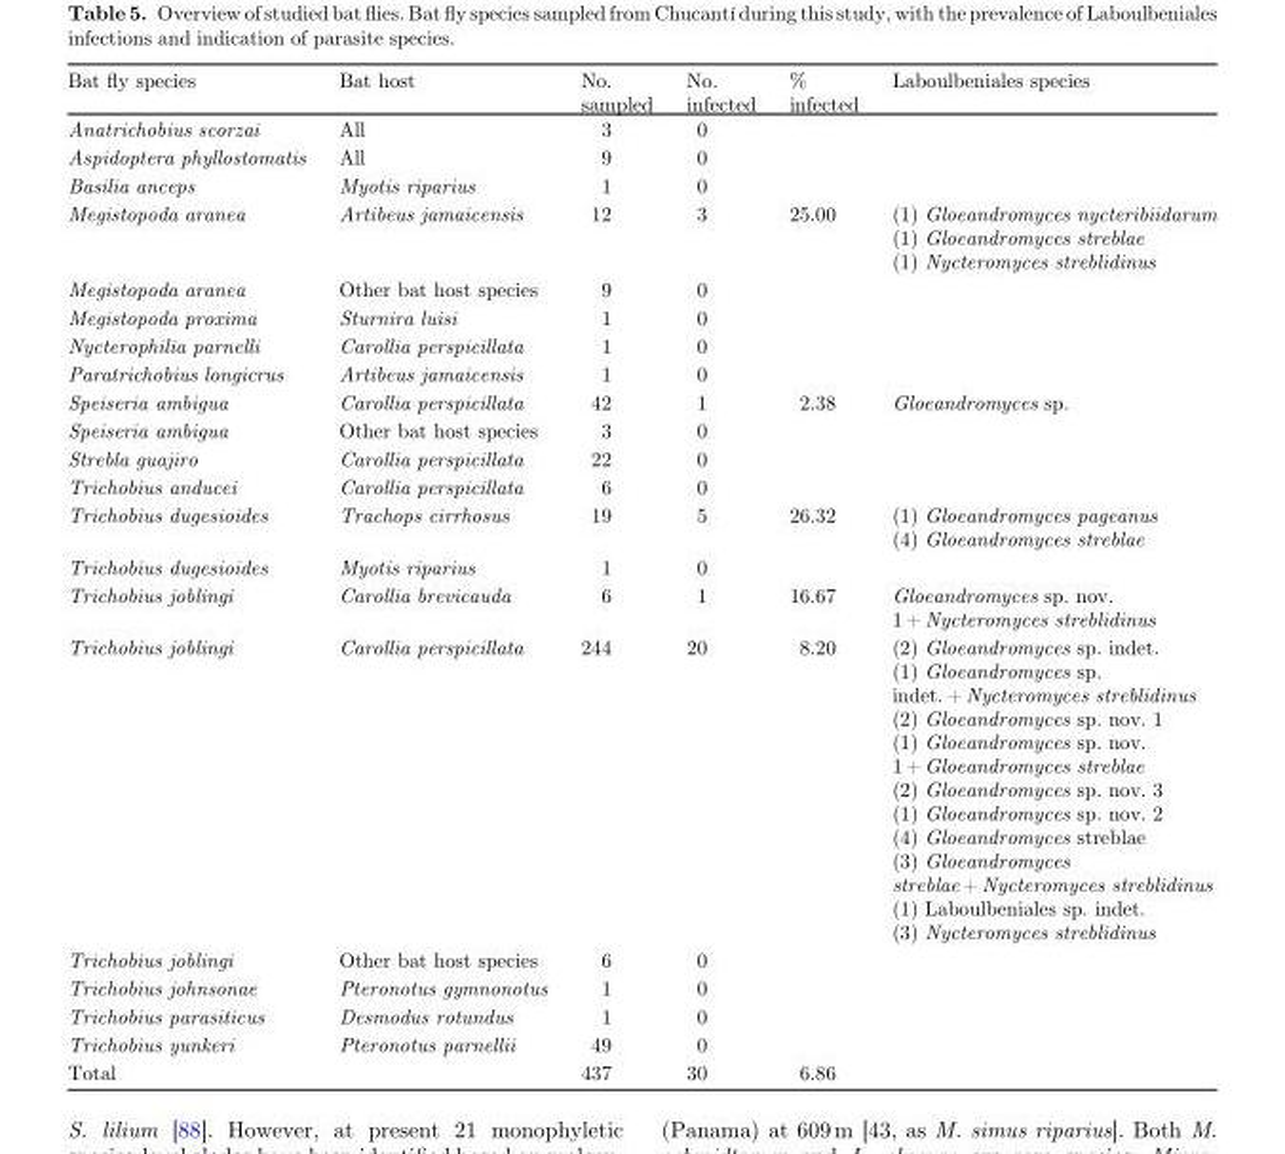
<table><thead><tr><td>Bat fly species</td><td>Bat host</td><td>No. sampled</td><td>No. infected</td><td>% infected</td><td>Laboulbeniales species</td></tr></thead><tbody><tr><td>Anatrichobius scorzai</td><td>All</td><td>3</td><td>0</td><td></td><td></td></tr><tr><td>Aspidoptera phyllostomatis</td><td>All</td><td>9</td><td>0</td><td></td><td></td></tr><tr><td>Basilia anceps</td><td>Myotis riparius</td><td>1</td><td>0</td><td></td><td></td></tr><tr><td>Megistopoda aranea</td><td>Artibeus jamaicensis</td><td>12</td><td>3</td><td>25.00</td><td>(1) Gloeandromyces nycteribiidarum (1) Gloeandromyces streblae (1) Nycteromyces streblidinus</td></tr><tr><td>Megistopoda aranea</td><td>Other bat host species</td><td>9</td><td>0</td><td></td><td></td></tr><tr><td>Megistopoda proxima</td><td>Sturnira luisi</td><td>1</td><td>0</td><td></td><td></td></tr><tr><td>Nycterophilia parnelli</td><td>Carollia perspicillata</td><td>1</td><td>0</td><td></td><td></td></tr><tr><td>Paratrichobius longicrus</td><td>Artibeus jamaicensis</td><td>1</td><td>0</td><td></td><td></td></tr><tr><td>Speiseria ambigua</td><td>Carollia perspicillata</td><td>42</td><td>1</td><td>2.38</td><td>Gloeandromyces sp.</td></tr><tr><td>Speiseria ambigua</td><td>Other bat host species</td><td>3</td><td>0</td><td></td><td></td></tr><tr><td>Strebla guajiro</td><td>Carollia perspicillata</td><td>22</td><td>0</td><td></td><td></td></tr><tr><td>Trichobius anducei</td><td>Carollia perspicillata</td><td>6</td><td>0</td><td></td><td></td></tr><tr><td>Trichobius dugesioides</td><td>Trachops cirrhosus</td><td>19</td><td>5</td><td>26.32</td><td>(1) Gloeandromyces pageanus (4) Gloeandromyces streblae</td></tr><tr><td>Trichobius dugesioides</td><td>Myotis riparius</td><td>1</td><td>0</td><td></td><td></td></tr><tr><td>Trichobius joblingi</td><td>Carollia brevicauda</td><td>6</td><td>1</td><td>16.67</td><td>Gloeandromyces sp. nov. 1 + Nycteromyces streblidinus</td></tr><tr><td>Trichobius joblingi</td><td>Carollia perspicillata</td><td>244</td><td>20</td><td>8.20</td><td>(2) Gloeandromyces sp. indet. (1) Gloeandromyces sp. indet. + Nycteromyces streblidinus (2) Gloeandromyces sp. nov. 1 (1) Gloeandromyces sp. nov. 1 + Gloeandromyces streblae (2) Gloeandromyces sp. nov. 3 (1) Gloeandromyces sp. nov. 2 (4) Gloeandromyces streblae (3) Gloeandromyces streblae + Nycteromyces streblidinus (1) Laboulbeniales sp. indet. (3) Nycteromyces streblidinus</td></tr><tr><td>Trichobius joblingi</td><td>Other bat host species</td><td>6</td><td>0</td><td></td><td></td></tr><tr><td>Trichobius johnsonae</td><td>Pteronotus gymnonotus</td><td>1</td><td>0</td><td></td><td></td></tr><tr><td>Trichobius parasiticus</td><td>Desmodus rotundus</td><td>1</td><td>0</td><td></td><td></td></tr><tr><td>Trichobius yunkeri</td><td>Pteronotus parnellii</td><td>49</td><td>0</td><td></td><td></td></tr><tr><td>Total</td><td></td><td>437</td><td>30</td><td>6.86</td><td></td></tr></tbody></table>